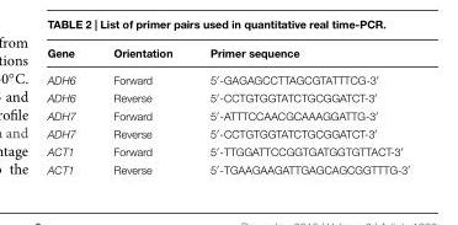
<table><thead><tr><td>Gene</td><td>Orientation</td><td>Primer sequence</td></tr></thead><tbody><tr><td>ADH6</td><td>Forward</td><td>5′-GAGAGCCTTAGCGTATTTCG-3′</td></tr><tr><td>ADH6</td><td>Reverse</td><td>5′-CCTGTGGTATCTGCGGATCT-3′</td></tr><tr><td>ADH7</td><td>Forward</td><td>5′-ATTTCCAACGCAAAGGATTG-3′</td></tr><tr><td>ADH7</td><td>Reverse</td><td>5′-CCTGTGGTATCTGCGGATCT-3′</td></tr><tr><td>ACT1</td><td>Forward</td><td>5′-TTGGATTCCGGTGATGGTGTTACT-3′</td></tr><tr><td>ACT1</td><td>Reverse</td><td>5′-TGAAGAAGATTGAGCAGCGGTTTG-3′</td></tr></tbody></table>